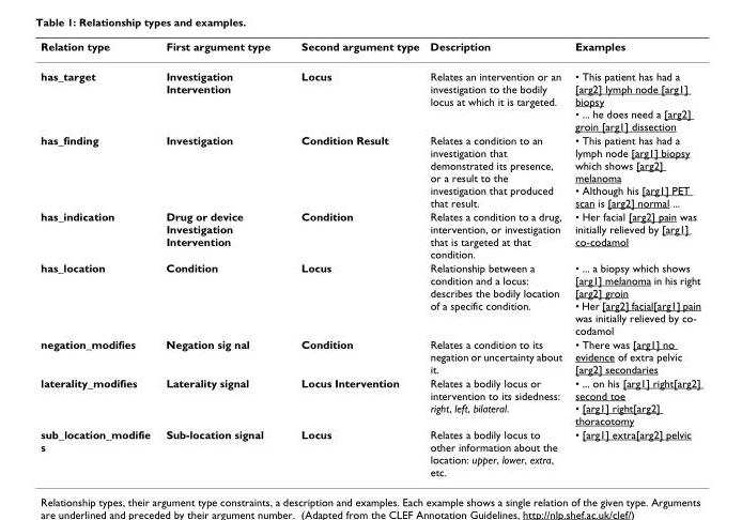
<table><thead><tr><td>Relation type</td><td>First argument type</td><td>Second argument type</td><td>Description</td><td>Examples</td></tr></thead><tbody><tr><td>has_target</td><td>Investigation Intervention</td><td>Locus</td><td>Relates an intervention or an investigation to the bodily locus at which it is targeted.</td><td>• This patient has had a [arg2] lymph node [arg1] biopsy • ... he does need a [arg2] groin [arg1] dissection</td></tr><tr><td>has_finding</td><td>Investigation</td><td>Condition Result</td><td>Relates a condition to an investigation that demonstrated its presence, or a result to the investigation that produced that result.</td><td>• This patient has had a lymph node [arg1] biopsy which shows [arg2] melanoma • Although his [arg1] PET scan is [arg2] normal ...</td></tr><tr><td>has_indication</td><td>Drug or device Investigation Intervention</td><td>Condition</td><td>Relates a condition to a drug, intervention, or investigation that is targeted at that condition.</td><td>• Her facial [arg2] pain was initially relieved by [arg1] co-codamol</td></tr><tr><td>has_location</td><td>Condition</td><td>Locus</td><td>Relationship between a condition and a locus: describes the bodily location of a specific condition.</td><td>• ... a biopsy which shows [arg1] melanoma in his right [arg2] groin • Her [arg2] facial[arg1] pain was initially relieved by co- codamol</td></tr><tr><td>negation_modifies</td><td>Negation sig nal</td><td>Condition</td><td>Relates a condition to its negation or uncertainty about it.</td><td>• There was [arg1] no evidence of extra pelvic [arg2] secondaries</td></tr><tr><td>laterality_modifies</td><td>Laterality signal</td><td>Locus Intervention</td><td>Relates a bodily locus or intervention to its sidedness: right, left, bilateral.</td><td>• ... on his [arg1] right[arg2] second toe • [arg1] right[arg2] thoracotomy</td></tr><tr><td>sub_location_modifie s</td><td>Sub-location signal</td><td>Locus</td><td>Relates a bodily locus to other information about the location: upper, lower, extra, etc.</td><td>• [arg1] extra[arg2] pelvic</td></tr></tbody></table>